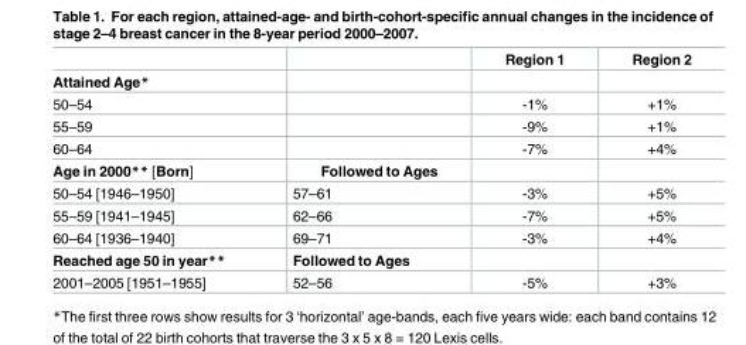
<table><thead><tr><td></td><td></td><td>Region 1</td><td>Region 2</td></tr></thead><tbody><tr><td colspan="4">Attained Age*</td></tr><tr><td>50–54</td><td></td><td>-1%</td><td>+1%</td></tr><tr><td>55–59</td><td></td><td>-9%</td><td>+1%</td></tr><tr><td>60–64</td><td></td><td>-7%</td><td>+4%</td></tr><tr><td>Age in 2000** [Born]</td><td>Followed to Ages</td><td></td><td></td></tr><tr><td>50–54 [1946–1950]</td><td>57–61</td><td>-3%</td><td>+5%</td></tr><tr><td>55–59 [1941–1945]</td><td>62–66</td><td>-7%</td><td>+5%</td></tr><tr><td>60–64 [1936–1940]</td><td>69–71</td><td>-3%</td><td>+4%</td></tr><tr><td>Reached age 50 in year**</td><td>Followed to Ages</td><td></td><td></td></tr><tr><td>2001–2005 [1951–1955]</td><td>52–56</td><td>-5%</td><td>+3%</td></tr></tbody></table>